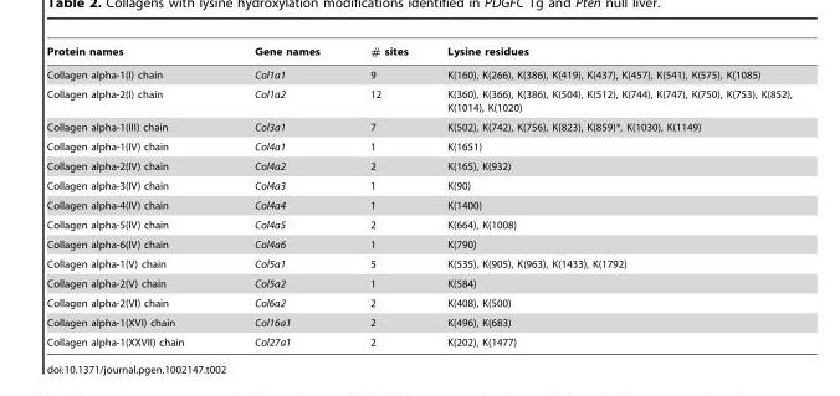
<table><thead><tr><td>Protein names</td><td>Gene names</td><td># sites</td><td>Lysine residues</td></tr></thead><tbody><tr><td>Collagen alpha-1(I) chain</td><td>Col1a1</td><td>9</td><td>K(160), K(266), K(386), K(419), K(437), K(457), K(541), K(575), K(1085)</td></tr><tr><td>Collagen alpha-2(I) chain</td><td>Col1a2</td><td>12</td><td>K(360), K(366), K(386), K(504), K(512), K(744), K(747), K(750), K(753), K(852), K(1014), K(1020)</td></tr><tr><td>Collagen alpha-1(III) chain</td><td>Col3a1</td><td>7</td><td>K(502), K(742), K(756), K(823), K(859)*, K(1030), K(1149)</td></tr><tr><td>Collagen alpha-1(IV) chain</td><td>Col4a1</td><td>1</td><td>K(1651)</td></tr><tr><td>Collagen alpha-2(IV) chain</td><td>Col4a2</td><td>2</td><td>K(165), K(932)</td></tr><tr><td>Collagen alpha-3(IV) chain</td><td>Col4a3</td><td>1</td><td>K(90)</td></tr><tr><td>Collagen alpha-4(IV) chain</td><td>Col4a4</td><td>1</td><td>K(1400)</td></tr><tr><td>Collagen alpha-5(IV) chain</td><td>Col4a5</td><td>2</td><td>K(664), K(1008)</td></tr><tr><td>Collagen alpha-6(IV) chain</td><td>Col4a6</td><td>1</td><td>K(790)</td></tr><tr><td>Collagen alpha-1(V) chain</td><td>Col5a1</td><td>5</td><td>K(535), K(905), K(963), K(1433), K(1792)</td></tr><tr><td>Collagen alpha-2(V) chain</td><td>Col5a2</td><td>1</td><td>K(584)</td></tr><tr><td>Collagen alpha-2(VI) chain</td><td>Col6a2</td><td>2</td><td>K(408), K(500)</td></tr><tr><td>Collagen alpha-1(XVI) chain</td><td>Col16a1</td><td>2</td><td>K(496), K(683)</td></tr><tr><td>Collagen alpha-1(XXVII) chain</td><td>Col27a1</td><td>2</td><td>K(202), K(1477)</td></tr></tbody></table>